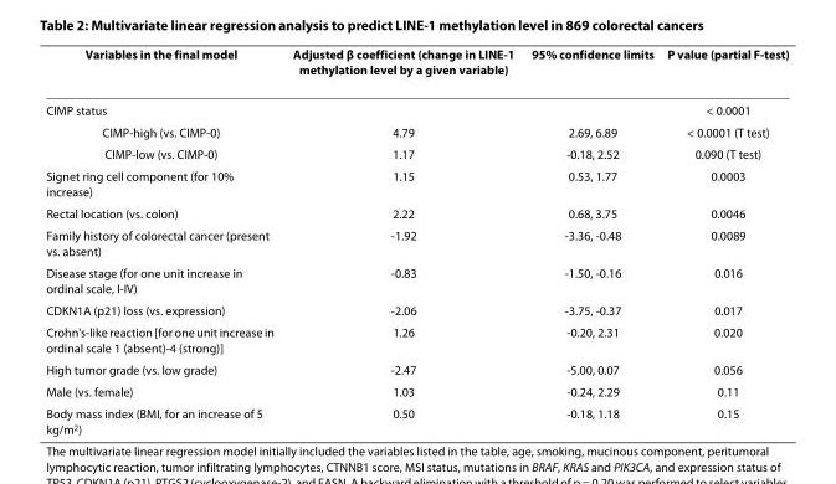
<table><thead><tr><td>Variables in the final model</td><td>Adjusted β coefficient (change in LINE-1 methylation level by a given variable)</td><td>95% confidence limits</td><td>P value (partial F-test)</td></tr></thead><tbody><tr><td>CIMP status</td><td></td><td></td><td>&lt; 0.0001</td></tr><tr><td>CIMP-high (vs. CIMP-0)</td><td>4.79</td><td>2.69, 6.89</td><td>&lt; 0.0001 (T test)</td></tr><tr><td>CIMP-low (vs. CIMP-0)</td><td>1.17</td><td>-0.18, 2.52</td><td>0.090 (T test)</td></tr><tr><td>Signet ring cell component (for 10% increase)</td><td>1.15</td><td>0.53, 1.77</td><td>0.0003</td></tr><tr><td>Rectal location (vs. colon)</td><td>2.22</td><td>0.68, 3.75</td><td>0.0046</td></tr><tr><td>Family history of colorectal cancer (present vs. absent)</td><td>-1.92</td><td>-3.36, -0.48</td><td>0.0089</td></tr><tr><td>Disease stage (for one unit increase in ordinal scale, I-IV)</td><td>-0.83</td><td>-1.50, -0.16</td><td>0.016</td></tr><tr><td>CDKN1A (p21) loss (vs. expression)</td><td>-2.06</td><td>-3.75, -0.37</td><td>0.017</td></tr><tr><td>Crohn&#x27;s-like reaction [for one unit increase in ordinal scale 1 (absent)-4 (strong)]</td><td>1.26</td><td>-0.20, 2.31</td><td>0.020</td></tr><tr><td>High tumor grade (vs. low grade)</td><td>-2.47</td><td>-5.00, 0.07</td><td>0.056</td></tr><tr><td>Male (vs. female)</td><td>1.03</td><td>-0.24, 2.29</td><td>0.11</td></tr><tr><td>Body mass index (BMI, for an increase of 5 kg/m<sup>2</sup>)</td><td>0.50</td><td>-0.18, 1.18</td><td>0.15</td></tr></tbody></table>